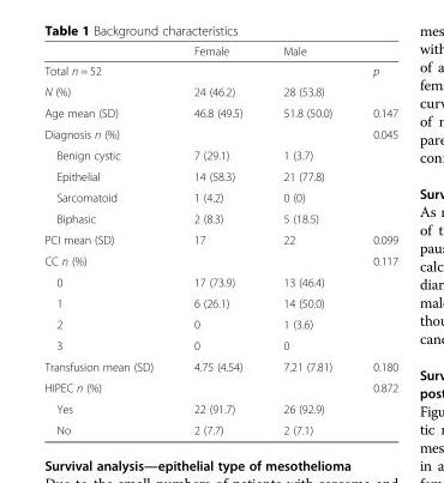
<table><thead><tr><td></td><td>Female</td><td>Male</td><td></td></tr></thead><tbody><tr><td>Total n = 52</td><td></td><td></td><td>p</td></tr><tr><td>N (%)</td><td>24 (46.2)</td><td>28 (53.8)</td><td></td></tr><tr><td>Age mean (SD)</td><td>46.8 (49.5)</td><td>51.8 (50.0)</td><td>0.147</td></tr><tr><td>Diagnosis n (%)</td><td></td><td></td><td>0.045</td></tr><tr><td>Benign cystic</td><td>7 (29.1)</td><td>1 (3.7)</td><td></td></tr><tr><td>Epithelial</td><td>14 (58.3)</td><td>21 (77.8)</td><td></td></tr><tr><td>Sarcomatoid</td><td>1 (4.2)</td><td>0 (0)</td><td></td></tr><tr><td>Biphasic</td><td>2 (8.3)</td><td>5 (18.5)</td><td></td></tr><tr><td>PCI mean (SD)</td><td>17</td><td>22</td><td>0.099</td></tr><tr><td>CC n (%)</td><td></td><td></td><td>0.117</td></tr><tr><td>0</td><td>17 (73.9)</td><td>13 (46.4)</td><td></td></tr><tr><td>1</td><td>6 (26.1)</td><td>14 (50.0)</td><td></td></tr><tr><td>2</td><td>0</td><td>1 (3.6)</td><td></td></tr><tr><td>3</td><td>0</td><td>0</td><td></td></tr><tr><td>Transfusion mean (SD)</td><td>4.75 (4.54)</td><td>7.21 (7.81)</td><td>0.180</td></tr><tr><td>HIPEC n (%)</td><td></td><td></td><td>0.872</td></tr><tr><td>Yes</td><td>22 (91.7)</td><td>26 (92.9)</td><td></td></tr><tr><td>No</td><td>2 (7.7)</td><td>2 (7.1)</td><td></td></tr></tbody></table>